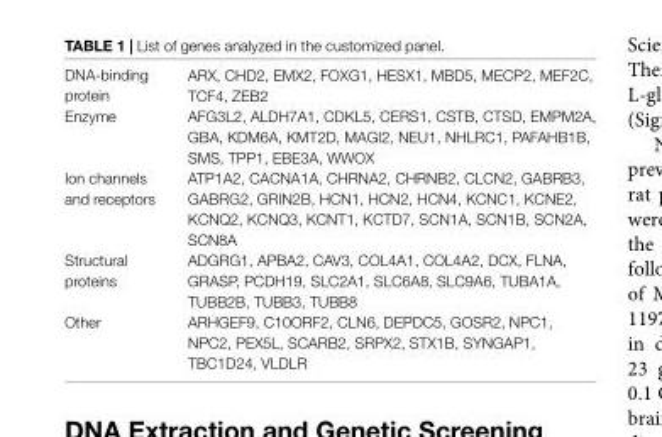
<table><tbody><tr><td>DNA-binding protein</td><td>ARX, CHD2, EMX2, FOXG1, HESX1, MBD5, MECP2, MEF2C, TCF4, ZEB2</td></tr><tr><td>Enzyme</td><td>AFG3L2, ALDH7A1, CDKL5, CERS1, CSTB, CTSD, EMPM2A, GBA, KDM6A, KMT2D, MAGI2, NEU1, NHLRC1, PAFAHB1B, SMS, TPP1, EBE3A, WWOX</td></tr><tr><td>Ion channels and receptors</td><td>ATP1A2, CACNA1A, CHRNA2, CHRNB2, CLCN2, GABRB3, GABRG2, GRIN2B, HCN1, HCN2, HCN4, KCNC1, KCNE2, KCNQ2, KCNQ3, KCNT1, KCTD7, SCN1A, SCN1B, SCN2A, SCN8A</td></tr><tr><td>Structural proteins</td><td>ADGRG1, APBA2, CAV3, COL4A1, COL4A2, DCX, FLNA, GRASP, PCDH19, SLC2A1, SLC6A8, SLC9A6, TUBA1A, TUBB2B, TUBB3, TUBB8</td></tr><tr><td>Other</td><td>ARHGEF9, C10ORF2, CLN6, DEPDC5, GOSR2, NPC1, NPC2, PEX5L, SCARB2, SRPX2, STX1B, SYNGAP1, TBC1D24, VLDLR</td></tr></tbody></table>